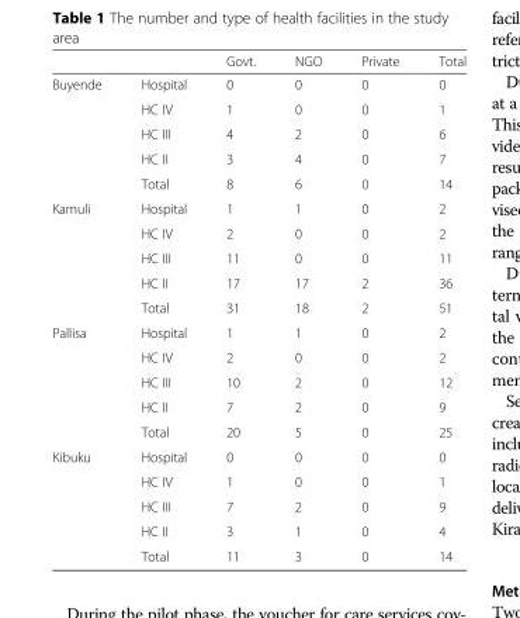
<table><thead><tr><td></td><td></td><td>Govt.</td><td>NGO</td><td>Private</td><td>Total</td></tr></thead><tbody><tr><td rowspan="5">Buyende</td><td>Hospital</td><td>0</td><td>0</td><td>0</td><td>0</td></tr><tr><td>HC IV</td><td>1</td><td>0</td><td>0</td><td>1</td></tr><tr><td>HC III</td><td>4</td><td>2</td><td>0</td><td>6</td></tr><tr><td>HC II</td><td>3</td><td>4</td><td>0</td><td>7</td></tr><tr><td>Total</td><td>8</td><td>6</td><td>0</td><td>14</td></tr><tr><td rowspan="5">Kamuli</td><td>Hospital</td><td>1</td><td>1</td><td>0</td><td>2</td></tr><tr><td>HC IV</td><td>2</td><td>0</td><td>0</td><td>2</td></tr><tr><td>HC III</td><td>11</td><td>0</td><td>0</td><td>11</td></tr><tr><td>HC II</td><td>17</td><td>17</td><td>2</td><td>36</td></tr><tr><td>Total</td><td>31</td><td>18</td><td>2</td><td>51</td></tr><tr><td rowspan="5">Pallisa</td><td>Hospital</td><td>1</td><td>1</td><td>0</td><td>2</td></tr><tr><td>HC IV</td><td>2</td><td>0</td><td>0</td><td>2</td></tr><tr><td>HC III</td><td>10</td><td>2</td><td>0</td><td>12</td></tr><tr><td>HC II</td><td>7</td><td>2</td><td>0</td><td>9</td></tr><tr><td>Total</td><td>20</td><td>5</td><td>0</td><td>25</td></tr><tr><td rowspan="5">Kibuku</td><td>Hospital</td><td>0</td><td>0</td><td>0</td><td>0</td></tr><tr><td>HC IV</td><td>1</td><td>0</td><td>0</td><td>1</td></tr><tr><td>HC III</td><td>7</td><td>2</td><td>0</td><td>9</td></tr><tr><td>HC II</td><td>3</td><td>1</td><td>0</td><td>4</td></tr><tr><td>Total</td><td>11</td><td>3</td><td>0</td><td>14</td></tr></tbody></table>